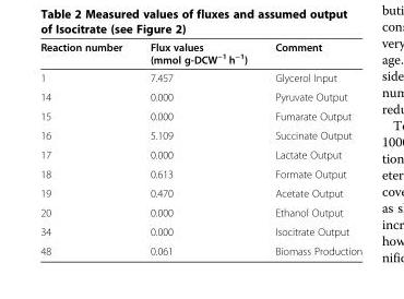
<table><thead><tr><td>Reaction number</td><td>Flux values (mmol g-DCW<sup>−1</sup> h<sup>−1</sup>)</td><td>Comment</td></tr></thead><tbody><tr><td>1</td><td>7.457</td><td>Glycerol Input</td></tr><tr><td>14</td><td>0.000</td><td>Pyruvate Output</td></tr><tr><td>15</td><td>0.000</td><td>Fumarate Output</td></tr><tr><td>16</td><td>5.109</td><td>Succinate Output</td></tr><tr><td>17</td><td>0.000</td><td>Lactate Output</td></tr><tr><td>18</td><td>0.613</td><td>Formate Output</td></tr><tr><td>19</td><td>0.470</td><td>Acetate Output</td></tr><tr><td>20</td><td>0.000</td><td>Ethanol Output</td></tr><tr><td>34</td><td>0.000</td><td>Isocitrate Output</td></tr><tr><td>48</td><td>0.061</td><td>Biomass Production</td></tr></tbody></table>